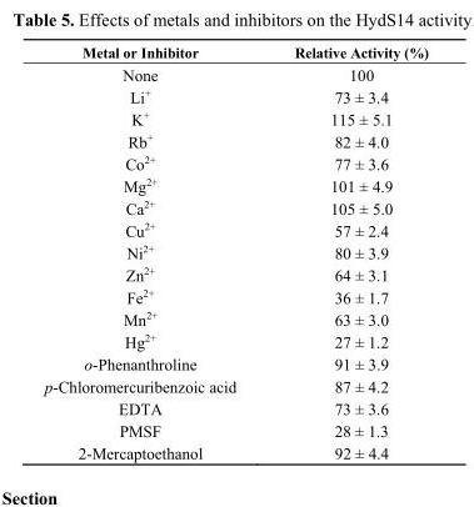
<table><thead><tr><td>Metal or Inhibitor</td><td>Relative Activity (%)</td></tr></thead><tbody><tr><td>None</td><td>100</td></tr><tr><td>Li<sup>+</sup></td><td>73 ± 3.4</td></tr><tr><td>K<sup>+</sup></td><td>115 ± 5.1</td></tr><tr><td>Rb<sup>+</sup></td><td>82 ± 4.0</td></tr><tr><td>Co<sup>2+</sup></td><td>77 ± 3.6</td></tr><tr><td>Mg<sup>2+</sup></td><td>101 ± 4.9</td></tr><tr><td>Ca<sup>2+</sup></td><td>105 ± 5.0</td></tr><tr><td>Cu<sup>2+</sup></td><td>57 ± 2.4</td></tr><tr><td>Ni<sup>2+</sup></td><td>80 ± 3.9</td></tr><tr><td>Zn<sup>2+</sup></td><td>64 ± 3.1</td></tr><tr><td>Fe<sup>2+</sup></td><td>36 ± 1.7</td></tr><tr><td>Mn<sup>2+</sup></td><td>63 ± 3.0</td></tr><tr><td>Hg<sup>2+</sup></td><td>27 ± 1.2</td></tr><tr><td>o-Phenanthroline</td><td>91 ± 3.9</td></tr><tr><td>p-Chloromercuribenzoic acid</td><td>87 ± 4.2</td></tr><tr><td>EDTA</td><td>73 ± 3.6</td></tr><tr><td>PMSF</td><td>28 ± 1.3</td></tr><tr><td>2-Mercaptoethanol</td><td>92 ± 4.4</td></tr></tbody></table>